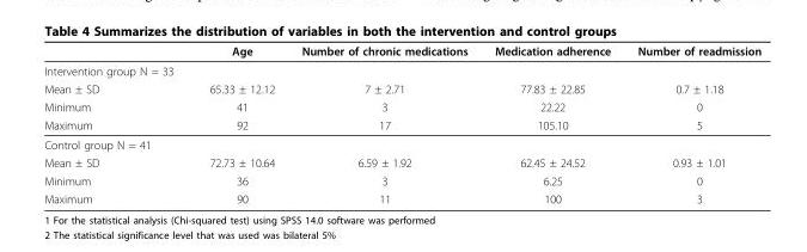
<table><thead><tr><td></td><td>Age</td><td>Number of chronic medications</td><td>Medication adherence</td><td>Number of readmission</td></tr></thead><tbody><tr><td colspan="5">Intervention group N = 33</td></tr><tr><td>Mean ± SD</td><td>65.33 ± 12.12</td><td>7 ± 2.71</td><td>77.83 ± 22.85</td><td>0.7 ± 1.18</td></tr><tr><td>Minimum</td><td>41</td><td>3</td><td>22.22</td><td>0</td></tr><tr><td>Maximum</td><td>92</td><td>17</td><td>105.10</td><td>5</td></tr><tr><td colspan="5">Control group N = 41</td></tr><tr><td>Mean ± SD</td><td>72.73 ± 10.64</td><td>6.59 ± 1.92</td><td>62.45 ± 24.52</td><td>0.93 ± 1.01</td></tr><tr><td>Minimum</td><td>36</td><td>3</td><td>6.25</td><td>0</td></tr><tr><td>Maximum</td><td>90</td><td>11</td><td>100</td><td>3</td></tr></tbody></table>